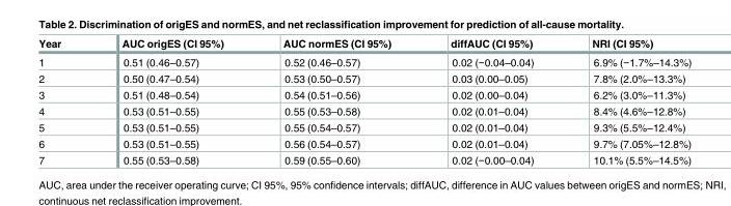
<table><thead><tr><td>Year</td><td>AUC origES (CI 95%)</td><td>AUC normES (CI 95%)</td><td>diffAUC (CI 95%)</td><td>NRI (CI 95%)</td></tr></thead><tbody><tr><td>1</td><td>0.51 (0.46–0.57)</td><td>0.52 (0.46–0.57)</td><td>0.02 (−0.04–0.04)</td><td>6.9% (−1.7%–14.3%)</td></tr><tr><td>2</td><td>0.50 (0.47–0.54)</td><td>0.53 (0.50–0.57)</td><td>0.03 (0.00–0.05)</td><td>7.8% (2.0%–13.3%)</td></tr><tr><td>3</td><td>0.51 (0.48–0.54)</td><td>0.54 (0.51–0.56)</td><td>0.02 (0.00–0.04)</td><td>6.2% (3.0%–11.3%)</td></tr><tr><td>4</td><td>0.53 (0.51–0.55)</td><td>0.55 (0.53–0.58)</td><td>0.02 (0.01–0.04)</td><td>8.4% (4.6%–12.8%)</td></tr><tr><td>5</td><td>0.53 (0.51–0.55)</td><td>0.55 (0.54–0.57)</td><td>0.02 (0.01–0.04)</td><td>9.3% (5.5%–12.4%)</td></tr><tr><td>6</td><td>0.53 (0.51–0.55)</td><td>0.56 (0.54–0.57)</td><td>0.02 (0.01–0.04)</td><td>9.7% (7.05%–12.8%)</td></tr><tr><td>7</td><td>0.55 (0.53–0.58)</td><td>0.59 (0.55–0.60)</td><td>0.02 (−0.00–0.04)</td><td>10.1% (5.5%–14.5%)</td></tr></tbody></table>